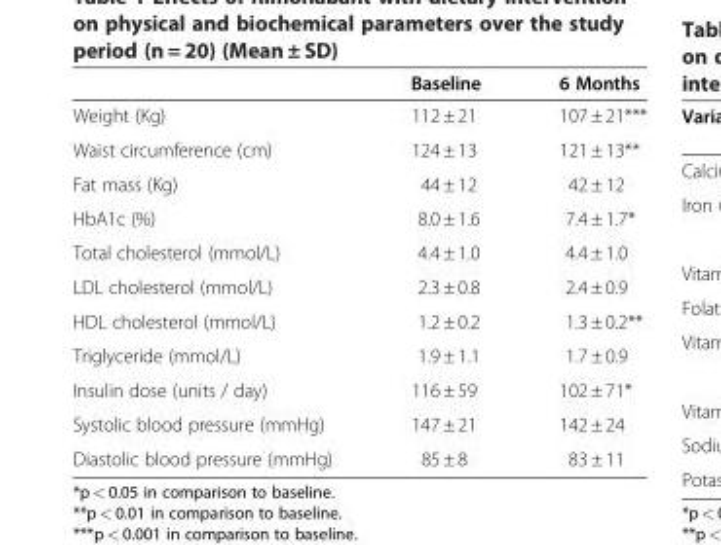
<table><thead><tr><td></td><td>Baseline</td><td>6 Months</td></tr></thead><tbody><tr><td>Weight (Kg)</td><td>112 ± 21</td><td>107 ± 21***</td></tr><tr><td>Waist circumference (cm)</td><td>124 ± 13</td><td>121 ± 13**</td></tr><tr><td>Fat mass (Kg)</td><td>44 ± 12</td><td>42 ± 12</td></tr><tr><td>HbA1c (%)</td><td>8.0 ± 1.6</td><td>7.4 ± 1.7*</td></tr><tr><td>Total cholesterol (mmol/L)</td><td>4.4 ± 1.0</td><td>4.4 ± 1.0</td></tr><tr><td>LDL cholesterol (mmol/L)</td><td>2.3 ± 0.8</td><td>2.4 ± 0.9</td></tr><tr><td>HDL cholesterol (mmol/L)</td><td>1.2 ± 0.2</td><td>1.3 ± 0.2**</td></tr><tr><td>Triglyceride (mmol/L)</td><td>1.9 ± 1.1</td><td>1.7 ± 0.9</td></tr><tr><td>Insulin dose (units / day)</td><td>116 ± 59</td><td>102 ± 71*</td></tr><tr><td>Systolic blood pressure (mmHg)</td><td>147 ± 21</td><td>142 ± 24</td></tr><tr><td>Diastolic blood pressure (mmHg)</td><td>85 ± 8</td><td>83 ± 11</td></tr></tbody></table>